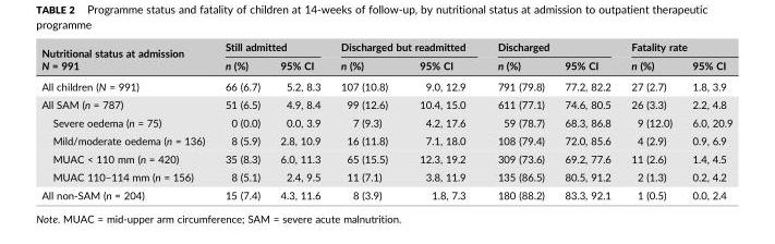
<table><thead><tr><td rowspan="2">Nutritional status at admission N = 991</td><td colspan="2">Still admitted</td><td colspan="2">Discharged but readmitted</td><td colspan="2">Discharged</td><td colspan="2">Fatality rate</td></tr><tr><td>n (%)</td><td>95% CI</td><td>n (%)</td><td>95% CI</td><td>n (%)</td><td>95% CI</td><td>n (%)</td><td>95% CI</td></tr></thead><tbody><tr><td>All children (N = 991)</td><td>66 (6.7)</td><td>5.2, 8.3</td><td>107 (10.8)</td><td>9.0, 12.9</td><td>791 (79.8)</td><td>77.2, 82.2</td><td>27 (2.7)</td><td>1.8, 3.9</td></tr><tr><td>All SAM (n = 787)</td><td>51 (6.5)</td><td>4.9, 8.4</td><td>99 (12.6)</td><td>10.4, 15.0</td><td>611 (77.1)</td><td>74.6, 80.5</td><td>26 (3.3)</td><td>2.2, 4.8</td></tr><tr><td>Severe oedema (n = 75)</td><td>0 (0.0)</td><td>0.0, 3.9</td><td>7 (9.3)</td><td>4.2, 17.6</td><td>59 (78.7)</td><td>68.3, 86.8</td><td>9 (12.0)</td><td>6.0, 20.9</td></tr><tr><td>Mild/moderate oedema (n = 136)</td><td>8 (5.9)</td><td>2.8, 10.9</td><td>16 (11.8)</td><td>7.1, 18.0</td><td>108 (79.4)</td><td>72.0, 85.6</td><td>4 (2.9)</td><td>0.9, 6.9</td></tr><tr><td>MUAC &lt; 110 mm (n = 420)</td><td>35 (8.3)</td><td>6.0, 11.3</td><td>65 (15.5)</td><td>12.3, 19.2</td><td>309 (73.6)</td><td>69.2, 77.6</td><td>11 (2.6)</td><td>1.4, 4.5</td></tr><tr><td>MUAC 110–114 mm (n = 156)</td><td>8 (5.1)</td><td>2.4, 9.5</td><td>11 (7.1)</td><td>3.8, 11.9</td><td>135 (86.5)</td><td>80.5, 91.2</td><td>2 (1.3)</td><td>0.2, 4.2</td></tr><tr><td>All non‐SAM (n = 204)</td><td>15 (7.4)</td><td>4.3, 11.6</td><td>8 (3.9)</td><td>1.8, 7.3</td><td>180 (88.2)</td><td>83.3, 92.1</td><td>1 (0.5)</td><td>0.0, 2.4</td></tr></tbody></table>